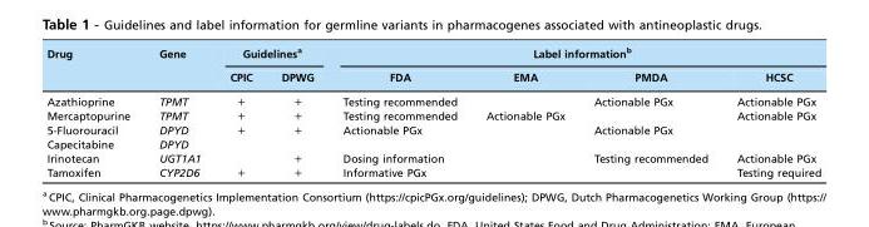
<table><thead><tr><td rowspan="2">Drug</td><td rowspan="2">Gene</td><td colspan="2">Guidelines<sup>a</sup></td><td colspan="4">Label information<sup>b</sup></td></tr><tr><td>CPIC</td><td>DPWG</td><td>FDA</td><td>EMA</td><td>PMDA</td><td>HCSC</td></tr></thead><tbody><tr><td>Azathioprine</td><td>TPMT</td><td>+</td><td>+</td><td>Testing recommended</td><td></td><td>Actionable PGx</td><td>Actionable PGx</td></tr><tr><td>Mercaptopurine</td><td>TPMT</td><td>+</td><td>+</td><td>Testing recommended</td><td>Actionable PGx</td><td></td><td>Actionable PGx</td></tr><tr><td>5-Fluorouracil</td><td>DPYD</td><td>+</td><td>+</td><td>Actionable PGx</td><td></td><td>Actionable PGx</td><td></td></tr><tr><td>Capecitabine</td><td>DPYD</td><td></td><td></td><td></td><td></td><td></td><td></td></tr><tr><td>Irinotecan</td><td>UGT1A1</td><td></td><td>+</td><td>Dosing information</td><td></td><td>Testing recommended</td><td>Actionable PGx</td></tr><tr><td>Tamoxifen</td><td>CYP2D6</td><td>+</td><td>+</td><td>Informative PGx</td><td></td><td></td><td>Testing required</td></tr></tbody></table>